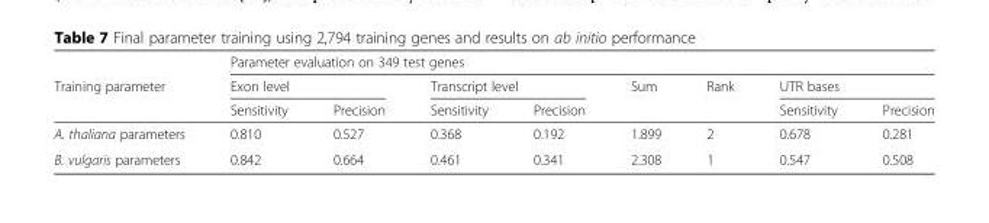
<table><thead><tr><td rowspan="3">Training parameter</td><td colspan="8">Parameter evaluation on 349 test genes</td></tr><tr><td colspan="2">Exon level</td><td colspan="2">Transcript level</td><td rowspan="2">Sum</td><td rowspan="2">Rank</td><td colspan="2">UTR bases</td></tr><tr><td>Sensitivity</td><td>Precision</td><td>Sensitivity</td><td>Precision</td><td>Sensitivity</td><td>Precision</td></tr></thead><tbody><tr><td>A. thaliana parameters</td><td>0.810</td><td>0.527</td><td>0.368</td><td>0.192</td><td>1.899</td><td>2</td><td>0.678</td><td>0.281</td></tr><tr><td>B. vulgaris parameters</td><td>0.842</td><td>0.664</td><td>0.461</td><td>0.341</td><td>2.308</td><td>1</td><td>0.547</td><td>0.508</td></tr></tbody></table>